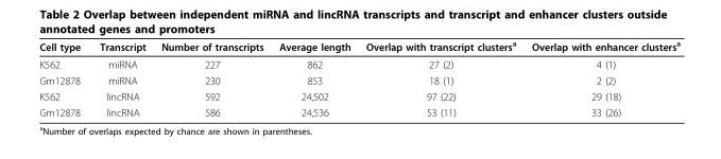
<table><thead><tr><td>Cell type</td><td>Transcript</td><td>Number of transcripts</td><td>Average length</td><td>Overlap with transcript clusters<sup>a</sup></td><td>Overlap with enhancer clusters<sup>a</sup></td></tr></thead><tbody><tr><td>K562</td><td>miRNA</td><td>227</td><td>862</td><td>27 (2)</td><td>4 (1)</td></tr><tr><td>Gm12878</td><td>miRNA</td><td>230</td><td>853</td><td>18 (1)</td><td>2 (2)</td></tr><tr><td>K562</td><td>lincRNA</td><td>592</td><td>24,502</td><td>97 (22)</td><td>29 (18)</td></tr><tr><td>Gm12878</td><td>lincRNA</td><td>586</td><td>24,536</td><td>53 (11)</td><td>33 (26)</td></tr></tbody></table>